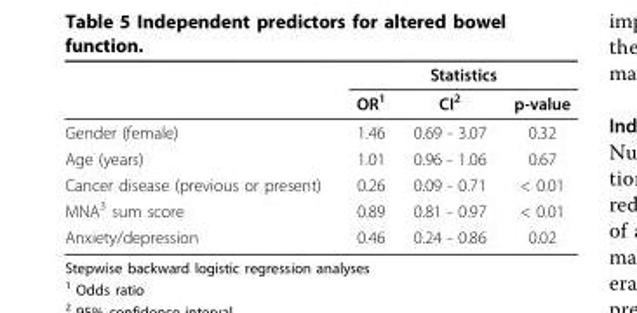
<table><thead><tr><td rowspan="2"></td><td colspan="3">Statistics</td></tr><tr><td>OR<sup>1</sup></td><td>CI<sup>2</sup></td><td>p-value</td></tr></thead><tbody><tr><td>Gender (female)</td><td>1.46</td><td>0.69 - 3.07</td><td>0.32</td></tr><tr><td>Age (years)</td><td>1.01</td><td>0.96 - 1.06</td><td>0.67</td></tr><tr><td>Cancer disease (previous or present)</td><td>0.26</td><td>0.09 - 0.71</td><td>&lt; 0.01</td></tr><tr><td>MNA<sup>3</sup> sum score</td><td>0.89</td><td>0.81 - 0.97</td><td>&lt; 0.01</td></tr><tr><td>Anxiety/depression</td><td>0.46</td><td>0.24 - 0.86</td><td>0.02</td></tr></tbody></table>